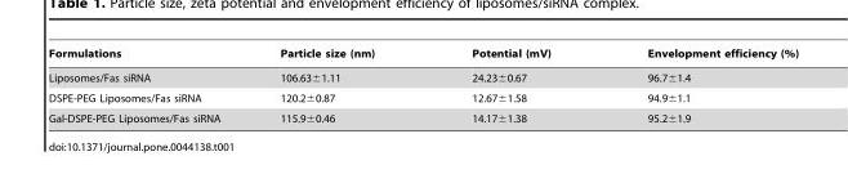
<table><thead><tr><td>Formulations</td><td>Particle size (nm)</td><td>Potential (mV)</td><td>Envelopment efficiency (%)</td></tr></thead><tbody><tr><td>Liposomes/Fas siRNA</td><td>106.63±1.11</td><td>24.23±0.67</td><td>96.7±1.4</td></tr><tr><td>DSPE-PEG Liposomes/Fas siRNA</td><td>120.2±0.87</td><td>12.67±1.58</td><td>94.9±1.1</td></tr><tr><td>Gal-DSPE-PEG Liposomes/Fas siRNA</td><td>115.9±0.46</td><td>14.17±1.38</td><td>95.2±1.9</td></tr></tbody></table>